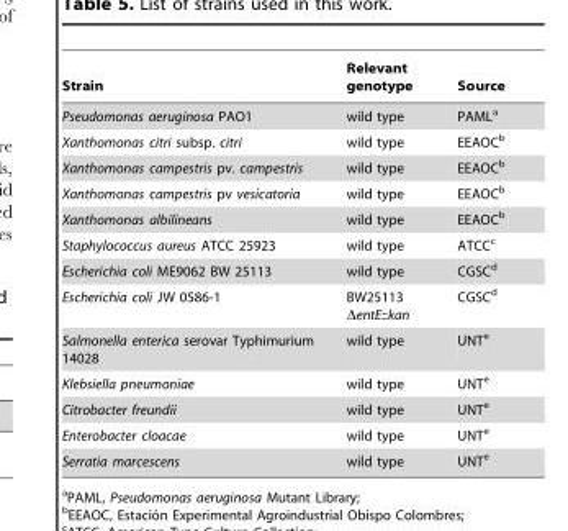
<table><thead><tr><td>Strain</td><td>Relevant genotype</td><td>Source</td></tr></thead><tbody><tr><td>Pseudomonas aeruginosa PAO1</td><td>wild type</td><td>PAML<sup>a</sup></td></tr><tr><td>Xanthomonas citri subsp. citri</td><td>wild type</td><td>EEAOC<sup>b</sup></td></tr><tr><td>Xanthomonas campestris pv. campestris</td><td>wild type</td><td>EEAOC<sup>b</sup></td></tr><tr><td>Xanthomonas campestris pv vesicatoria</td><td>wild type</td><td>EEAOC<sup>b</sup></td></tr><tr><td>Xanthomonas albilineans</td><td>wild type</td><td>EEAOC<sup>b</sup></td></tr><tr><td>Staphylococcus aureus ATCC 25923</td><td>wild type</td><td>ATCC<sup>c</sup></td></tr><tr><td>Escherichia coli ME9062 BW 25113</td><td>wild type</td><td>CGSC<sup>d</sup></td></tr><tr><td>Escherichia coli JW 0586-1</td><td>BW25113 ΔentE::kan</td><td>CGSC<sup>d</sup></td></tr><tr><td>Salmonella enterica serovar Typhimurium 14028</td><td>wild type</td><td>UNT<sup>e</sup></td></tr><tr><td>Klebsiella pneumoniae</td><td>wild type</td><td>UNT<sup>e</sup></td></tr><tr><td>Citrobacter freundii</td><td>wild type</td><td>UNT<sup>e</sup></td></tr><tr><td>Enterobacter cloacae</td><td>wild type</td><td>UNT<sup>e</sup></td></tr><tr><td>Serratia marcescens</td><td>wild type</td><td>UNT<sup>e</sup></td></tr></tbody></table>